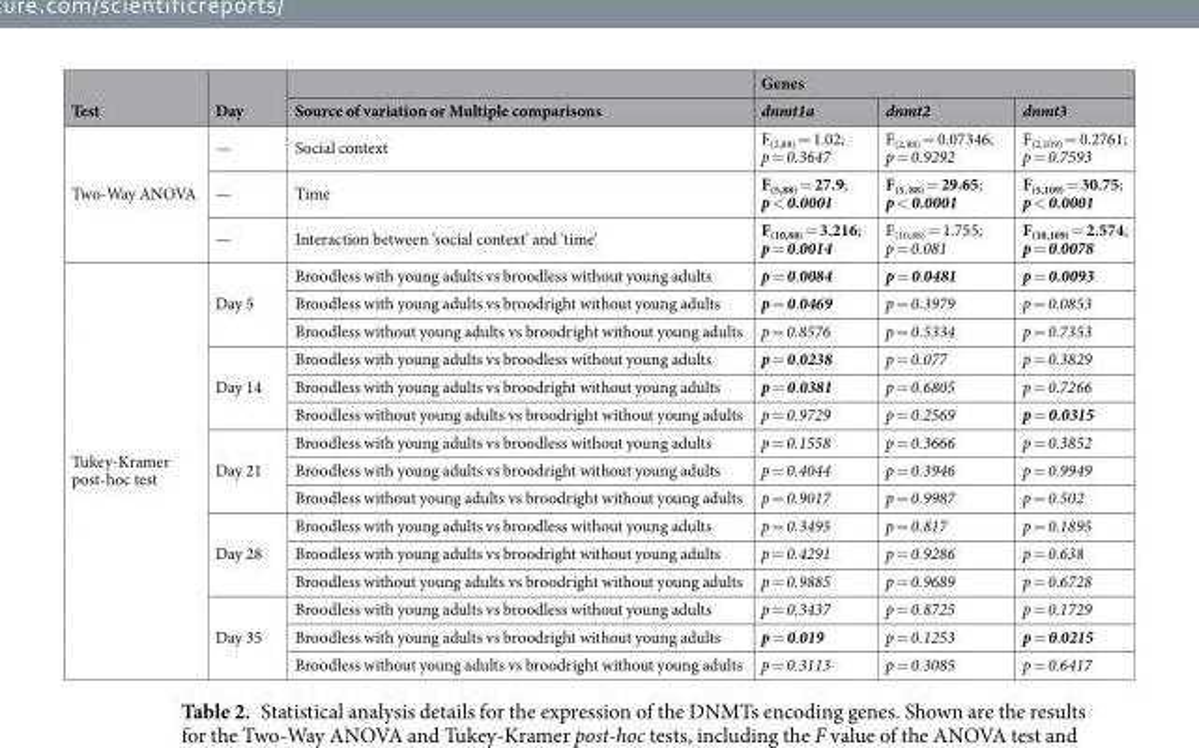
<table><thead><tr><td rowspan="2">Test</td><td rowspan="2">Day</td><td rowspan="2">Source of variation or Multiple comparisons</td><td colspan="3">Genes</td></tr><tr><td>dnmt1a</td><td>dnmt2</td><td>dnmt3</td></tr></thead><tbody><tr><td rowspan="3">Two-Way ANOVA</td><td>—</td><td>Social context</td><td>F<sub>(2,88)</sub> = 1.02; p = 0.3647</td><td>F<sub>(2,88)</sub> = 0.07346; p = 0.9292</td><td>F<sub>(2,109)</sub> = 0.2761; p = 0.7593</td></tr><tr><td>—</td><td>Time</td><td>F<sub>(5,88)</sub> = 27.9; p &lt; 0.0001</td><td>F<sub>(5, 88)</sub> = 29.65; p &lt; 0.0001</td><td>F<sub>(5,109)</sub> = 30.75; p &lt; 0.0001</td></tr><tr><td>—</td><td>Interaction between ‘social context’ and ‘time’</td><td>F<sub>(10,88)</sub> = 3.216; p = 0.0014</td><td>F<sub>(10,88)</sub> = 1.755; p = 0.081</td><td>F<sub>(10,109)</sub> = 2.574; p = 0.0078</td></tr><tr><td rowspan="15">Tukey-Kramer post-hoc test</td><td rowspan="3">Day 5</td><td>Broodless with young adults vs broodless without young adults</td><td>p = 0.0084</td><td>p = 0.0481</td><td>p = 0.0093</td></tr><tr><td>Broodless with young adults vs broodright without young adults</td><td>p = 0.0469</td><td>p = 0.3979</td><td>p = 0.0853</td></tr><tr><td>Broodless without young adults vs broodright without young adults</td><td>p = 0.8576</td><td>p = 0.5334</td><td>p = 0.7353</td></tr><tr><td rowspan="3">Day 14</td><td>Broodless with young adults vs broodless without young adults</td><td>p = 0.0238</td><td>p = 0.077</td><td>p = 0.3829</td></tr><tr><td>Broodless with young adults vs broodright without young adults</td><td>p = 0.0381</td><td>p = 0.6805</td><td>p = 0.7266</td></tr><tr><td>Broodless without young adults vs broodright without young adults</td><td>p = 0.9729</td><td>p = 0.2569</td><td>p = 0.0315</td></tr><tr><td rowspan="3">Day 21</td><td>Broodless with young adults vs broodless without young adults</td><td>p = 0.1558</td><td>p = 0.3666</td><td>p = 0.3852</td></tr><tr><td>Broodless with young adults vs broodright without young adults</td><td>p = 0.4044</td><td>p = 0.3946</td><td>p = 0.9949</td></tr><tr><td>Broodless without young adults vs broodright without young adults</td><td>p = 0.9017</td><td>p = 0.9987</td><td>p = 0.502</td></tr><tr><td rowspan="3">Day 28</td><td>Broodless with young adults vs broodless without young adults</td><td>p = 0.3495</td><td>p = 0.817</td><td>p = 0.1895</td></tr><tr><td>Broodless with young adults vs broodright without young adults</td><td>p = 0.4291</td><td>p = 0.9286</td><td>p = 0.638</td></tr><tr><td>Broodless without young adults vs broodright without young adults</td><td>p = 0.9885</td><td>p = 0.9689</td><td>p = 0.6728</td></tr><tr><td rowspan="3">Day 35</td><td>Broodless with young adults vs broodless without young adults</td><td>p = 0.3437</td><td>p = 0.8725</td><td>p = 0.1729</td></tr><tr><td>Broodless with young adults vs broodright without young adults</td><td>p = 0.019</td><td>p = 0.1253</td><td>p = 0.0215</td></tr><tr><td>Broodless without young adults vs broodright without young adults</td><td>p = 0.3113</td><td>p = 0.3085</td><td>p = 0.6417</td></tr></tbody></table>